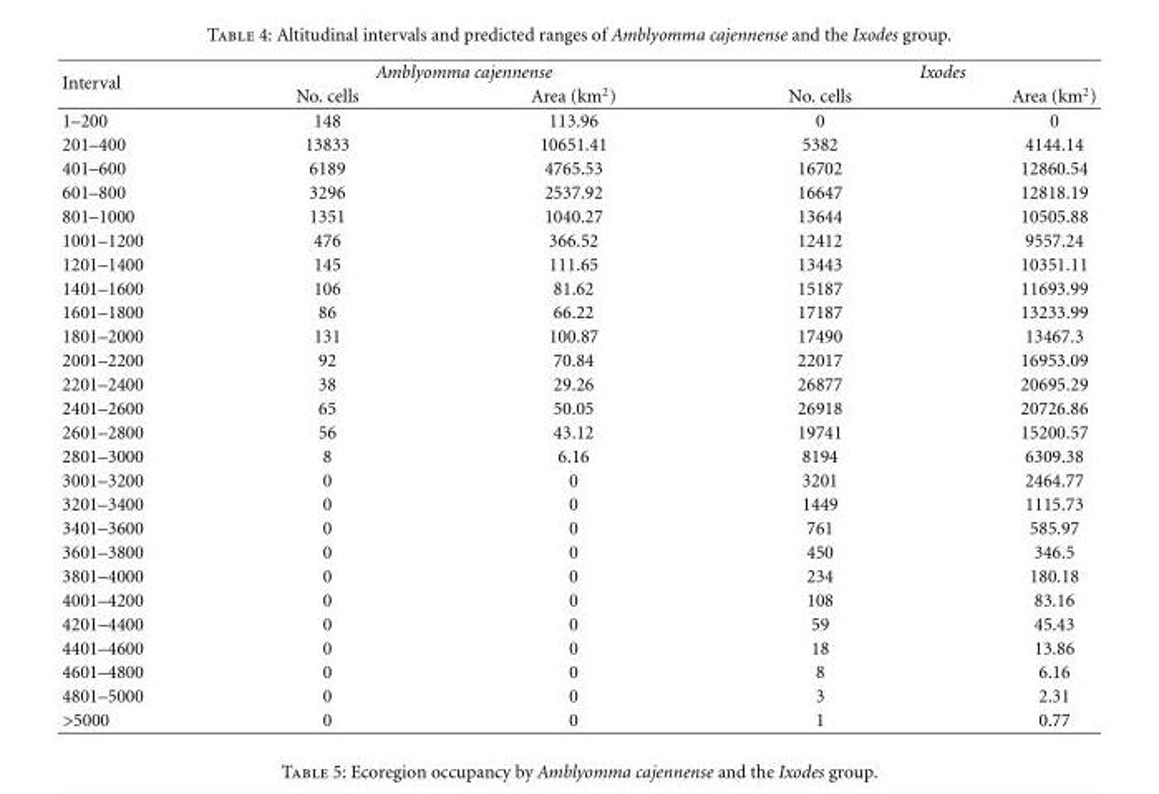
<table><thead><tr><td rowspan="2">Interval</td><td colspan="2">Amblyomma cajennense</td><td colspan="2">Ixodes</td></tr><tr><td>No. cells</td><td>Area (km<sup>2</sup>)</td><td>No. cells</td><td>Area (km<sup>2</sup>)</td></tr></thead><tbody><tr><td>1–200</td><td>148</td><td>113.96</td><td>0</td><td>0</td></tr><tr><td>201–400</td><td>13833</td><td>10651.41</td><td>5382</td><td>4144.14</td></tr><tr><td>401–600</td><td>6189</td><td>4765.53</td><td>16702</td><td>12860.54</td></tr><tr><td>601–800</td><td>3296</td><td>2537.92</td><td>16647</td><td>12818.19</td></tr><tr><td>801–1000</td><td>1351</td><td>1040.27</td><td>13644</td><td>10505.88</td></tr><tr><td>1001–1200</td><td>476</td><td>366.52</td><td>12412</td><td>9557.24</td></tr><tr><td>1201–1400</td><td>145</td><td>111.65</td><td>13443</td><td>10351.11</td></tr><tr><td>1401–1600</td><td>106</td><td>81.62</td><td>15187</td><td>11693.99</td></tr><tr><td>1601–1800</td><td>86</td><td>66.22</td><td>17187</td><td>13233.99</td></tr><tr><td>1801–2000</td><td>131</td><td>100.87</td><td>17490</td><td>13467.3</td></tr><tr><td>2001–2200</td><td>92</td><td>70.84</td><td>22017</td><td>16953.09</td></tr><tr><td>2201–2400</td><td>38</td><td>29.26</td><td>26877</td><td>20695.29</td></tr><tr><td>2401–2600</td><td>65</td><td>50.05</td><td>26918</td><td>20726.86</td></tr><tr><td>2601–2800</td><td>56</td><td>43.12</td><td>19741</td><td>15200.57</td></tr><tr><td>2801–3000</td><td>8</td><td>6.16</td><td>8194</td><td>6309.38</td></tr><tr><td>3001–3200</td><td>0</td><td>0</td><td>3201</td><td>2464.77</td></tr><tr><td>3201–3400</td><td>0</td><td>0</td><td>1449</td><td>1115.73</td></tr><tr><td>3401–3600</td><td>0</td><td>0</td><td>761</td><td>585.97</td></tr><tr><td>3601–3800</td><td>0</td><td>0</td><td>450</td><td>346.5</td></tr><tr><td>3801–4000</td><td>0</td><td>0</td><td>234</td><td>180.18</td></tr><tr><td>4001–4200</td><td>0</td><td>0</td><td>108</td><td>83.16</td></tr><tr><td>4201–4400</td><td>0</td><td>0</td><td>59</td><td>45.43</td></tr><tr><td>4401–4600</td><td>0</td><td>0</td><td>18</td><td>13.86</td></tr><tr><td>4601–4800</td><td>0</td><td>0</td><td>8</td><td>6.16</td></tr><tr><td>4801–5000</td><td>0</td><td>0</td><td>3</td><td>2.31</td></tr><tr><td>&gt;5000</td><td>0</td><td>0</td><td>1</td><td>0.77</td></tr></tbody></table>